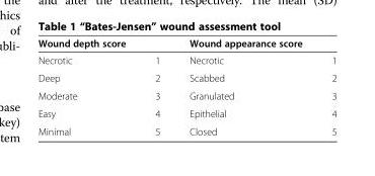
<table><thead><tr><td>Wound depth score</td><td></td><td>Wound appearance score</td><td></td></tr></thead><tbody><tr><td>Necrotic</td><td>1</td><td>Necrotic</td><td>1</td></tr><tr><td>Deep</td><td>2</td><td>Scabbed</td><td>2</td></tr><tr><td>Moderate</td><td>3</td><td>Granulated</td><td>3</td></tr><tr><td>Easy</td><td>4</td><td>Epithelial</td><td>4</td></tr><tr><td>Minimal</td><td>5</td><td>Closed</td><td>5</td></tr></tbody></table>